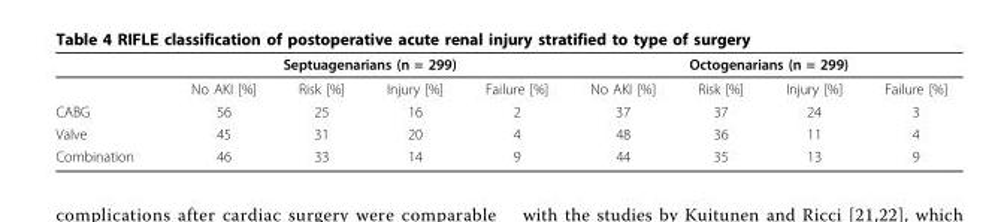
<table><thead><tr><td rowspan="2"></td><td colspan="4">Septuagenarians (n = 299)</td><td colspan="4">Octogenarians (n = 299)</td></tr><tr><td>No AKI [%]</td><td>Risk [%]</td><td>Injury [%]</td><td>Failure [%]</td><td>No AKI [%]</td><td>Risk [%]</td><td>Injury [%]</td><td>Failure [%]</td></tr></thead><tbody><tr><td>CABG</td><td>56</td><td>25</td><td>16</td><td>2</td><td>37</td><td>37</td><td>24</td><td>3</td></tr><tr><td>Valve</td><td>45</td><td>31</td><td>20</td><td>4</td><td>48</td><td>36</td><td>11</td><td>4</td></tr><tr><td>Combination</td><td>46</td><td>33</td><td>14</td><td>9</td><td>44</td><td>35</td><td>13</td><td>9</td></tr></tbody></table>